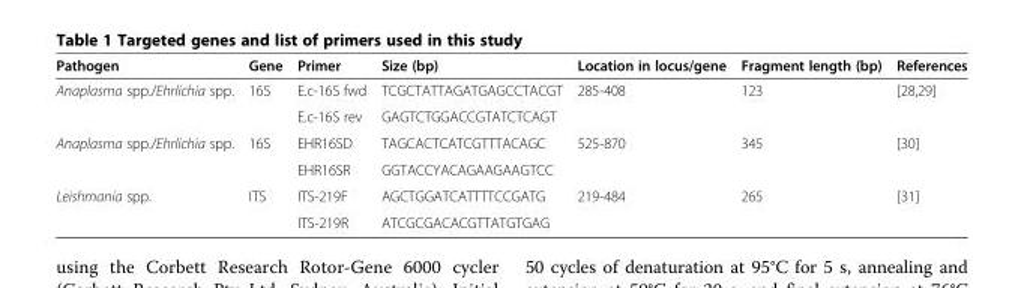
<table><thead><tr><td>Pathogen</td><td>Gene</td><td>Primer</td><td>Size (bp)</td><td>Location in locus/gene</td><td>Fragment length (bp)</td><td>References</td></tr></thead><tbody><tr><td rowspan="2">Anaplasma spp./Ehrlichia spp.</td><td rowspan="2">16S</td><td>E.c-16S fwd</td><td>TCGCTATTAGATGAGCCTACGT</td><td rowspan="2">285-408</td><td rowspan="2">123</td><td rowspan="2">[28,29]</td></tr><tr><td>E.c-16S rev</td><td>GAGTCTGGACCGTATCTCAGT</td></tr><tr><td rowspan="2">Anaplasma spp./Ehrlichia spp.</td><td rowspan="2">16S</td><td>EHR16SD</td><td>TAGCACTCATCGTTTACAGC</td><td rowspan="2">525-870</td><td rowspan="2">345</td><td rowspan="2">[30]</td></tr><tr><td>EHR16SR</td><td>GGTACCYACAGAAGAAGTCC</td></tr><tr><td rowspan="2">Leishmania spp.</td><td rowspan="2">ITS</td><td>ITS-219F</td><td>AGCTGGATCATTTTCCGATG</td><td rowspan="2">219-484</td><td rowspan="2">265</td><td rowspan="2">[31]</td></tr><tr><td>ITS-219R</td><td>ATCGCGACACGTTATGTGAG</td></tr></tbody></table>